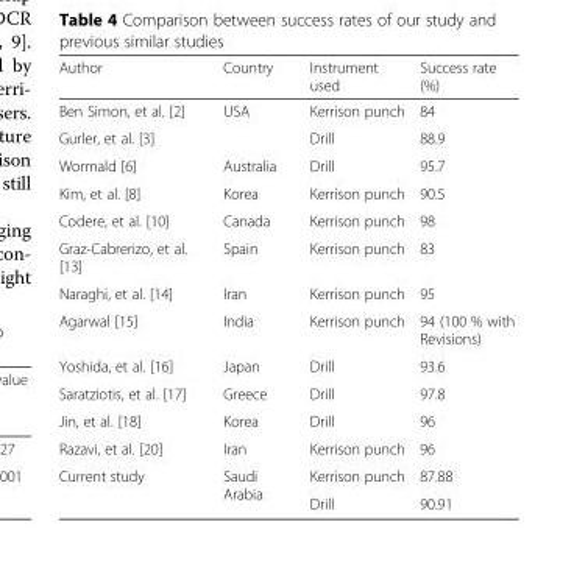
<table><thead><tr><td>Author</td><td>Country</td><td>Instrument used</td><td>Success rate (%)</td></tr></thead><tbody><tr><td>Ben Simon, et al. [2]</td><td>USA</td><td>Kerrison punch</td><td>84</td></tr><tr><td>Gurler, et al. [3]</td><td></td><td>Drill</td><td>88.9</td></tr><tr><td>Wormald [6]</td><td>Australia</td><td>Drill</td><td>95.7</td></tr><tr><td>Kim, et al. [8]</td><td>Korea</td><td>Kerrison punch</td><td>90.5</td></tr><tr><td>Codere, et al. [10]</td><td>Canada</td><td>Kerrison punch</td><td>98</td></tr><tr><td>Graz-Cabrerizo, et al. [13]</td><td>Spain</td><td>Kerrison punch</td><td>83</td></tr><tr><td>Naraghi, et al. [14]</td><td>Iran</td><td>Kerrison punch</td><td>95</td></tr><tr><td>Agarwal [15]</td><td>India</td><td>Kerrison punch</td><td>94 (100 % with Revisions)</td></tr><tr><td>Yoshida, et al. [16]</td><td>Japan</td><td>Drill</td><td>93.6</td></tr><tr><td>Saratziotis, et al. [17]</td><td>Greece</td><td>Drill</td><td>97.8</td></tr><tr><td>Jin, et al. [18]</td><td>Korea</td><td>Drill</td><td>96</td></tr><tr><td>Razavi, et al. [20]</td><td>Iran</td><td>Kerrison punch</td><td>96</td></tr><tr><td rowspan="2">Current study</td><td rowspan="2">Saudi Arabia</td><td>Kerrison punch</td><td>87.88</td></tr><tr><td>Drill</td><td>90.91</td></tr></tbody></table>